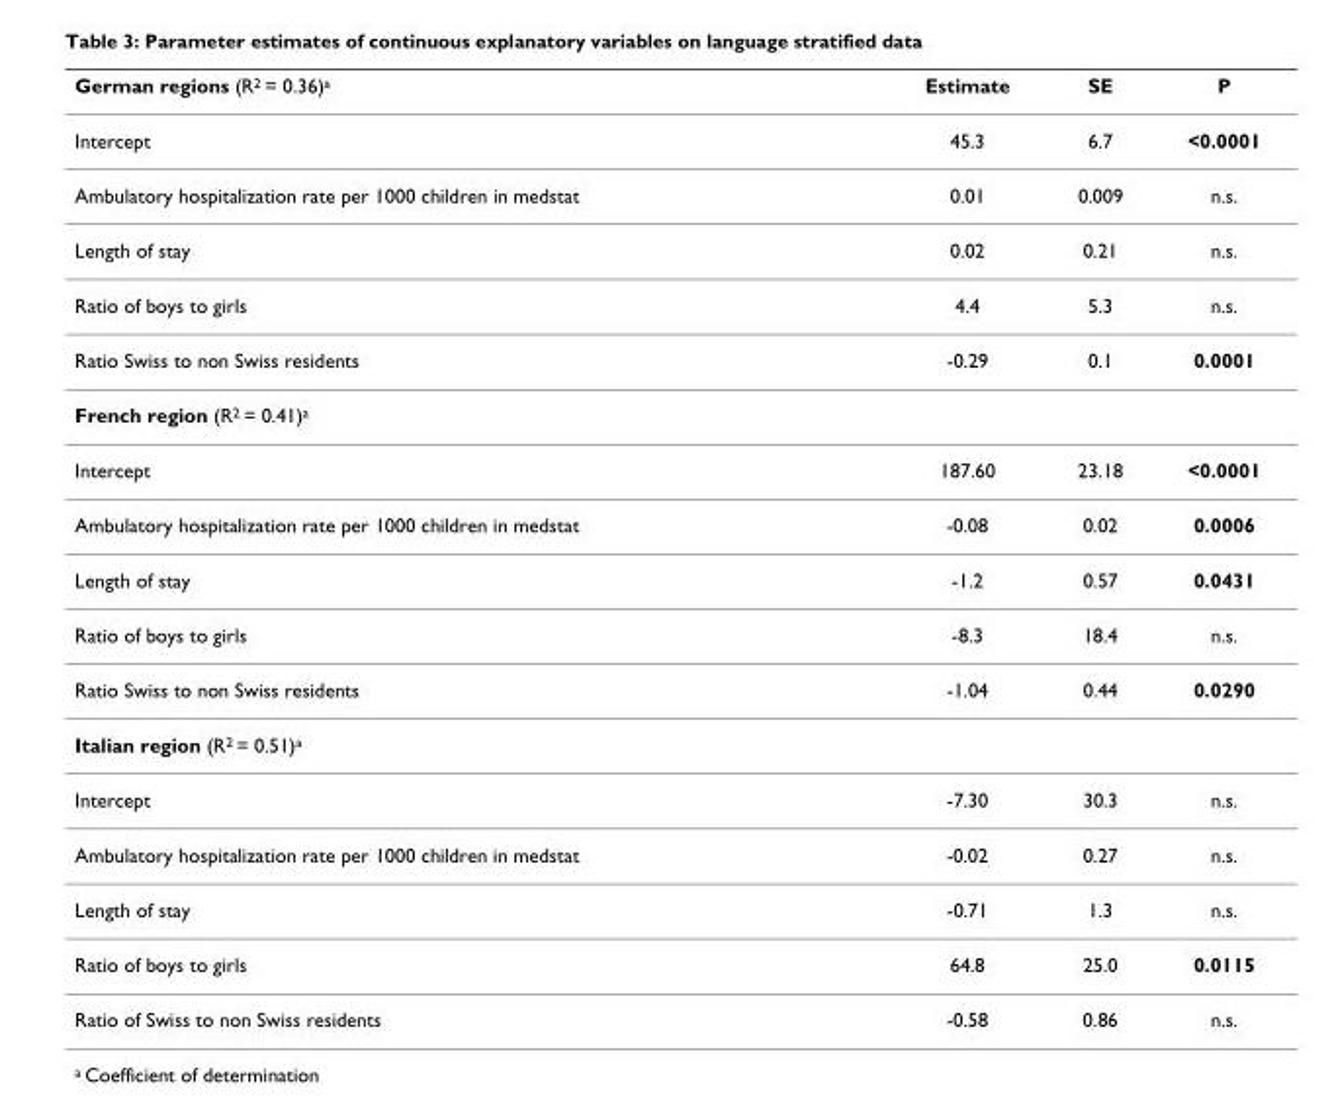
<table><thead><tr><td>German regions (R<sup>2</sup> = 0.36)<sup>a</sup></td><td>Estimate</td><td>SE</td><td>P</td></tr></thead><tbody><tr><td>Intercept</td><td>45.3</td><td>6.7</td><td>&lt;0.0001</td></tr><tr><td>Ambulatory hospitalization rate per 1000 children in medstat</td><td>0.01</td><td>0.009</td><td>n.s.</td></tr><tr><td>Length of stay</td><td>0.02</td><td>0.21</td><td>n.s.</td></tr><tr><td>Ratio of boys to girls</td><td>4.4</td><td>5.3</td><td>n.s.</td></tr><tr><td>Ratio Swiss to non Swiss residents</td><td>-0.29</td><td>0.1</td><td>0.0001</td></tr><tr><td colspan="4">French region (R<sup>2</sup> = 0.41)<sup>a</sup></td></tr><tr><td>Intercept</td><td>187.60</td><td>23.18</td><td>&lt;0.0001</td></tr><tr><td>Ambulatory hospitalization rate per 1000 children in medstat</td><td>-0.08</td><td>0.02</td><td>0.0006</td></tr><tr><td>Length of stay</td><td>-1.2</td><td>0.57</td><td>0.0431</td></tr><tr><td>Ratio of boys to girls</td><td>-8.3</td><td>18.4</td><td>n.s.</td></tr><tr><td>Ratio Swiss to non Swiss residents</td><td>-1.04</td><td>0.44</td><td>0.0290</td></tr><tr><td colspan="4">Italian region (R<sup>2</sup> = 0.51)<sup>a</sup></td></tr><tr><td>Intercept</td><td>-7.30</td><td>30.3</td><td>n.s.</td></tr><tr><td>Ambulatory hospitalization rate per 1000 children in medstat</td><td>-0.02</td><td>0.27</td><td>n.s.</td></tr><tr><td>Length of stay</td><td>-0.71</td><td>1.3</td><td>n.s.</td></tr><tr><td>Ratio of boys to girls</td><td>64.8</td><td>25.0</td><td>0.0115</td></tr><tr><td>Ratio of Swiss to non Swiss residents</td><td>-0.58</td><td>0.86</td><td>n.s.</td></tr></tbody></table>